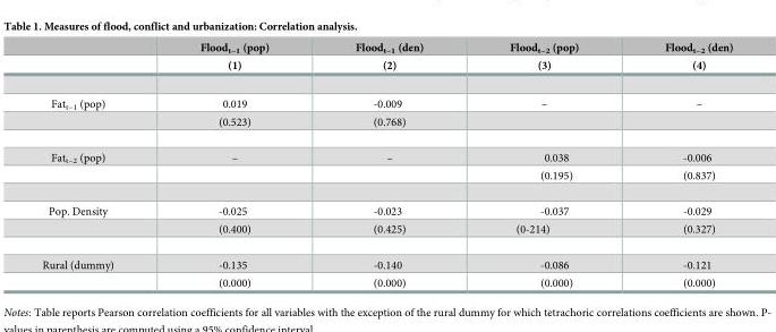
<table><thead><tr><td rowspan="2"></td><td rowspan="2">Flood<sub>t−1</sub> (pop) (1)</td><td rowspan="2">Flood<sub>t−1</sub> (den) (2)</td><td rowspan="2">Flood<sub>t−2</sub> (pop) (3)</td><td rowspan="2">Flood<sub>t−2</sub> (den) (4)</td></tr><tr></tr></thead><tbody><tr><td rowspan="2">Fat<sub>t−1</sub> (pop)</td><td>0.019</td><td>-0.009</td><td>–</td><td>–</td></tr><tr><td>(0.523)</td><td>(0.768)</td><td></td><td></td></tr><tr><td rowspan="2">Fat<sub>t−2</sub> (pop)</td><td>–</td><td>–</td><td>0.038</td><td>-0.006</td></tr><tr><td></td><td></td><td>(0.195)</td><td>(0.837)</td></tr><tr><td rowspan="2">Pop. Density</td><td>-0.025</td><td>-0.023</td><td>-0.037</td><td>-0.029</td></tr><tr><td>(0.400)</td><td>(0.425)</td><td>(0-214)</td><td>(0.327)</td></tr><tr><td rowspan="2">Rural (dummy)</td><td>-0.135</td><td>-0.140</td><td>-0.086</td><td>-0.121</td></tr><tr><td>(0.000)</td><td>(0.000)</td><td>(0.000)</td><td>(0.000)</td></tr></tbody></table>